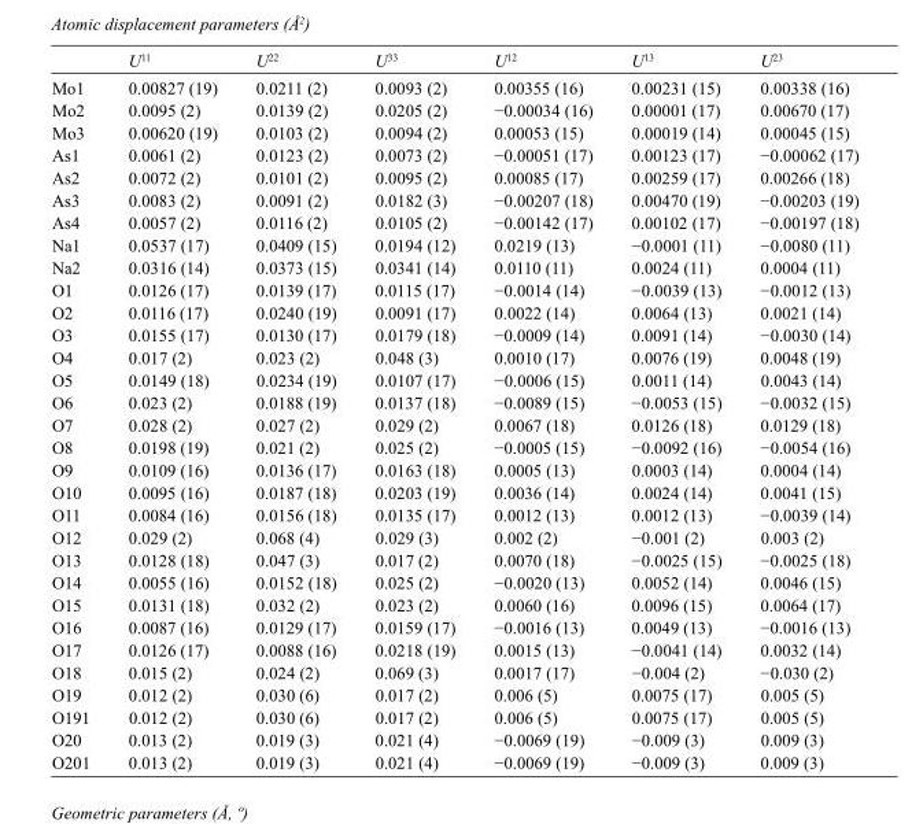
<table><thead><tr><td></td><td>U<sup>11</sup></td><td>U<sup>22</sup></td><td>U<sup>33</sup></td><td>U<sup>12</sup></td><td>U<sup>13</sup></td><td>U<sup>23</sup></td></tr></thead><tbody><tr><td>Mo1</td><td>0.00827 (19)</td><td>0.0211 (2)</td><td>0.0093 (2)</td><td>0.00355 (16)</td><td>0.00231 (15)</td><td>0.00338 (16)</td></tr><tr><td>Mo2</td><td>0.0095 (2)</td><td>0.0139 (2)</td><td>0.0205 (2)</td><td>−0.00034 (16)</td><td>0.00001 (17)</td><td>0.00670 (17)</td></tr><tr><td>Mo3</td><td>0.00620 (19)</td><td>0.0103 (2)</td><td>0.0094 (2)</td><td>0.00053 (15)</td><td>0.00019 (14)</td><td>0.00045 (15)</td></tr><tr><td>As1</td><td>0.0061 (2)</td><td>0.0123 (2)</td><td>0.0073 (2)</td><td>−0.00051 (17)</td><td>0.00123 (17)</td><td>−0.00062 (17)</td></tr><tr><td>As2</td><td>0.0072 (2)</td><td>0.0101 (2)</td><td>0.0095 (2)</td><td>0.00085 (17)</td><td>0.00259 (17)</td><td>0.00266 (18)</td></tr><tr><td>As3</td><td>0.0083 (2)</td><td>0.0091 (2)</td><td>0.0182 (3)</td><td>−0.00207 (18)</td><td>0.00470 (19)</td><td>−0.00203 (19)</td></tr><tr><td>As4</td><td>0.0057 (2)</td><td>0.0116 (2)</td><td>0.0105 (2)</td><td>−0.00142 (17)</td><td>0.00102 (17)</td><td>−0.00197 (18)</td></tr><tr><td>Na1</td><td>0.0537 (17)</td><td>0.0409 (15)</td><td>0.0194 (12)</td><td>0.0219 (13)</td><td>−0.0001 (11)</td><td>−0.0080 (11)</td></tr><tr><td>Na2</td><td>0.0316 (14)</td><td>0.0373 (15)</td><td>0.0341 (14)</td><td>0.0110 (11)</td><td>0.0024 (11)</td><td>0.0004 (11)</td></tr><tr><td>O1</td><td>0.0126 (17)</td><td>0.0139 (17)</td><td>0.0115 (17)</td><td>−0.0014 (14)</td><td>−0.0039 (13)</td><td>−0.0012 (13)</td></tr><tr><td>O2</td><td>0.0116 (17)</td><td>0.0240 (19)</td><td>0.0091 (17)</td><td>0.0022 (14)</td><td>0.0064 (13)</td><td>0.0021 (14)</td></tr><tr><td>O3</td><td>0.0155 (17)</td><td>0.0130 (17)</td><td>0.0179 (18)</td><td>−0.0009 (14)</td><td>0.0091 (14)</td><td>−0.0030 (14)</td></tr><tr><td>O4</td><td>0.017 (2)</td><td>0.023 (2)</td><td>0.048 (3)</td><td>0.0010 (17)</td><td>0.0076 (19)</td><td>0.0048 (19)</td></tr><tr><td>O5</td><td>0.0149 (18)</td><td>0.0234 (19)</td><td>0.0107 (17)</td><td>−0.0006 (15)</td><td>0.0011 (14)</td><td>0.0043 (14)</td></tr><tr><td>O6</td><td>0.023 (2)</td><td>0.0188 (19)</td><td>0.0137 (18)</td><td>−0.0089 (15)</td><td>−0.0053 (15)</td><td>−0.0032 (15)</td></tr><tr><td>O7</td><td>0.028 (2)</td><td>0.027 (2)</td><td>0.029 (2)</td><td>0.0067 (18)</td><td>0.0126 (18)</td><td>0.0129 (18)</td></tr><tr><td>O8</td><td>0.0198 (19)</td><td>0.021 (2)</td><td>0.025 (2)</td><td>−0.0005 (15)</td><td>−0.0092 (16)</td><td>−0.0054 (16)</td></tr><tr><td>O9</td><td>0.0109 (16)</td><td>0.0136 (17)</td><td>0.0163 (18)</td><td>0.0005 (13)</td><td>0.0003 (14)</td><td>0.0004 (14)</td></tr><tr><td>O10</td><td>0.0095 (16)</td><td>0.0187 (18)</td><td>0.0203 (19)</td><td>0.0036 (14)</td><td>0.0024 (14)</td><td>0.0041 (15)</td></tr><tr><td>O11</td><td>0.0084 (16)</td><td>0.0156 (18)</td><td>0.0135 (17)</td><td>0.0012 (13)</td><td>0.0012 (13)</td><td>−0.0039 (14)</td></tr><tr><td>O12</td><td>0.029 (2)</td><td>0.068 (4)</td><td>0.029 (3)</td><td>0.002 (2)</td><td>−0.001 (2)</td><td>0.003 (2)</td></tr><tr><td>O13</td><td>0.0128 (18)</td><td>0.047 (3)</td><td>0.017 (2)</td><td>0.0070 (18)</td><td>−0.0025 (15)</td><td>−0.0025 (18)</td></tr><tr><td>O14</td><td>0.0055 (16)</td><td>0.0152 (18)</td><td>0.025 (2)</td><td>−0.0020 (13)</td><td>0.0052 (14)</td><td>0.0046 (15)</td></tr><tr><td>O15</td><td>0.0131 (18)</td><td>0.032 (2)</td><td>0.023 (2)</td><td>0.0060 (16)</td><td>0.0096 (15)</td><td>0.0064 (17)</td></tr><tr><td>O16</td><td>0.0087 (16)</td><td>0.0129 (17)</td><td>0.0159 (17)</td><td>−0.0016 (13)</td><td>0.0049 (13)</td><td>−0.0016 (13)</td></tr><tr><td>O17</td><td>0.0126 (17)</td><td>0.0088 (16)</td><td>0.0218 (19)</td><td>0.0015 (13)</td><td>−0.0041 (14)</td><td>0.0032 (14)</td></tr><tr><td>O18</td><td>0.015 (2)</td><td>0.024 (2)</td><td>0.069 (3)</td><td>0.0017 (17)</td><td>−0.004 (2)</td><td>−0.030 (2)</td></tr><tr><td>O19</td><td>0.012 (2)</td><td>0.030 (6)</td><td>0.017 (2)</td><td>0.006 (5)</td><td>0.0075 (17)</td><td>0.005 (5)</td></tr><tr><td>O191</td><td>0.012 (2)</td><td>0.030 (6)</td><td>0.017 (2)</td><td>0.006 (5)</td><td>0.0075 (17)</td><td>0.005 (5)</td></tr><tr><td>O20</td><td>0.013 (2)</td><td>0.019 (3)</td><td>0.021 (4)</td><td>−0.0069 (19)</td><td>−0.009 (3)</td><td>0.009 (3)</td></tr><tr><td>O201</td><td>0.013 (2)</td><td>0.019 (3)</td><td>0.021 (4)</td><td>−0.0069 (19)</td><td>−0.009 (3)</td><td>0.009 (3)</td></tr></tbody></table>